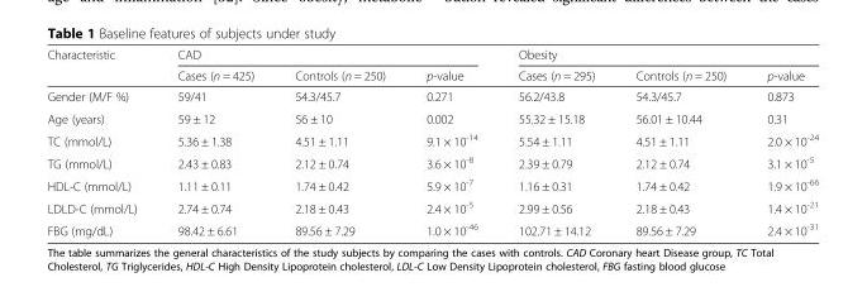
<table><thead><tr><td rowspan="2">Characteristic</td><td colspan="3">CAD</td><td colspan="3">Obesity</td></tr><tr><td>Cases (n = 425)</td><td>Controls (n = 250)</td><td>p-value</td><td>Cases (n = 295)</td><td>Controls (n = 250)</td><td>p-value</td></tr></thead><tbody><tr><td>Gender (M/F %)</td><td>59/41</td><td>54.3/45.7</td><td>0.271</td><td>56.2/43.8</td><td>54.3/45.7</td><td>0.873</td></tr><tr><td>Age (years)</td><td>59 ± 12</td><td>56 ± 10</td><td>0.002</td><td>55.32 ± 15.18</td><td>56.01 ± 10.44</td><td>0.31</td></tr><tr><td>TC (mmol/L)</td><td>5.36 ± 1.38</td><td>4.51 ± 1.11</td><td>9.1 × 10<sup>-14</sup></td><td>5.54 ± 1.11</td><td>4.51 ± 1.11</td><td>2.0 × 10<sup>-24</sup></td></tr><tr><td>TG (mmol/L)</td><td>2.43 ± 0.83</td><td>2.12 ± 0.74</td><td>3.6 × 10<sup>-8</sup></td><td>2.39 ± 0.79</td><td>2.12 ± 0.74</td><td>3.1 × 10<sup>-5</sup></td></tr><tr><td>HDL-C (mmol/L)</td><td>1.11 ± 0.11</td><td>1.74 ± 0.42</td><td>5.9 × 10<sup>-7</sup></td><td>1.16 ± 0.31</td><td>1.74 ± 0.42</td><td>1.9 × 10<sup>-66</sup></td></tr><tr><td>LDLD-C (mmol/L)</td><td>2.74 ± 0.74</td><td>2.18 ± 0.43</td><td>2.4 × 10<sup>-5</sup></td><td>2.99 ± 0.56</td><td>2.18 ± 0.43</td><td>1.4 × 10<sup>-21</sup></td></tr><tr><td>FBG (mg/dL)</td><td>98.42 ± 6.61</td><td>89.56 ± 7.29</td><td>1.0 × 10<sup>-46</sup></td><td>102.71 ± 14.12</td><td>89.56 ± 7.29</td><td>2.4 × 10<sup>-31</sup></td></tr></tbody></table>